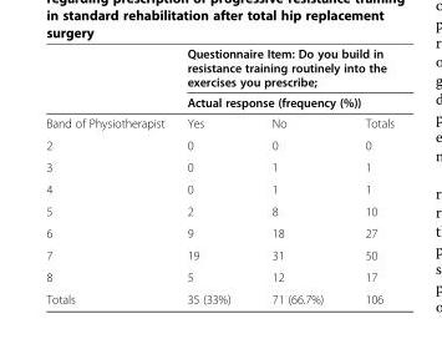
<table><thead><tr><td rowspan="3">Band of Physiotherapist</td><td rowspan="2" colspan="3">Questionnaire Item: Do you build in resistance training routinely into the exercises you prescribe; Actual response (frequency (%))</td></tr><tr></tr><tr><td>Yes</td><td>No</td><td>Totals</td></tr></thead><tbody><tr><td>2</td><td>0</td><td>0</td><td>0</td></tr><tr><td>3</td><td>0</td><td>1</td><td>1</td></tr><tr><td>4</td><td>0</td><td>1</td><td>1</td></tr><tr><td>5</td><td>2</td><td>8</td><td>10</td></tr><tr><td>6</td><td>9</td><td>18</td><td>27</td></tr><tr><td>7</td><td>19</td><td>31</td><td>50</td></tr><tr><td>8</td><td>5</td><td>12</td><td>17</td></tr><tr><td>Totals</td><td>35 (33%)</td><td>71 (66.7%)</td><td>106</td></tr></tbody></table>